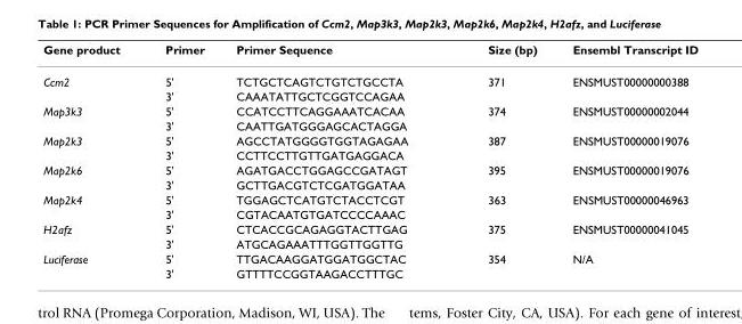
<table><thead><tr><td>Gene product</td><td>Primer</td><td>Primer Sequence</td><td>Size (bp)</td><td>Ensembl Transcript ID</td></tr></thead><tbody><tr><td rowspan="2">Ccm2</td><td>5&#x27;</td><td>TCTGCTCAGTCTGTCTGCCTA</td><td>371</td><td>ENSMUST00000000388</td></tr><tr><td>3&#x27;</td><td>CAAATATTGCTCGGTCCAGAA</td><td></td><td></td></tr><tr><td rowspan="2">Map3k3</td><td>5&#x27;</td><td>CCATCCTTCAGGAAATCACAA</td><td>374</td><td>ENSMUST00000002044</td></tr><tr><td>3&#x27;</td><td>CAATTGATGGGAGCACTAGGA</td><td></td><td></td></tr><tr><td rowspan="2">Map2k3</td><td>5&#x27;</td><td>AGCCTATGGGGTGGTAGAGAA</td><td>387</td><td>ENSMUST00000019076</td></tr><tr><td>3&#x27;</td><td>CCTTCCTTGTTGATGAGGACA</td><td></td><td></td></tr><tr><td rowspan="2">Map2k6</td><td>5&#x27;</td><td>AGATGACCTGGAGCCGATAGT</td><td>395</td><td>ENSMUST00000019076</td></tr><tr><td>3&#x27;</td><td>GCTTGACGTCTCGATGGATAA</td><td></td><td></td></tr><tr><td rowspan="2">Map2k4</td><td>5&#x27;</td><td>TGGAGCTCATGTCTACCTCGT</td><td>363</td><td>ENSMUST00000046963</td></tr><tr><td>3&#x27;</td><td>CGTACAATGTGATCCCCAAAC</td><td></td><td></td></tr><tr><td rowspan="2">H2afz</td><td>5&#x27;</td><td>CTCACCGCAGAGGTACTTGAG</td><td>375</td><td>ENSMUST00000041045</td></tr><tr><td>3&#x27;</td><td>ATGCAGAAATTTGGTTGGTTG</td><td></td><td></td></tr><tr><td rowspan="2">Luciferase</td><td>5&#x27;</td><td>TTGACAAGGATGGATGGCTAC</td><td>354</td><td>N/A</td></tr><tr><td>3&#x27;</td><td>GTTTTCCGGTAAGACCTTTGC</td><td></td><td></td></tr></tbody></table>